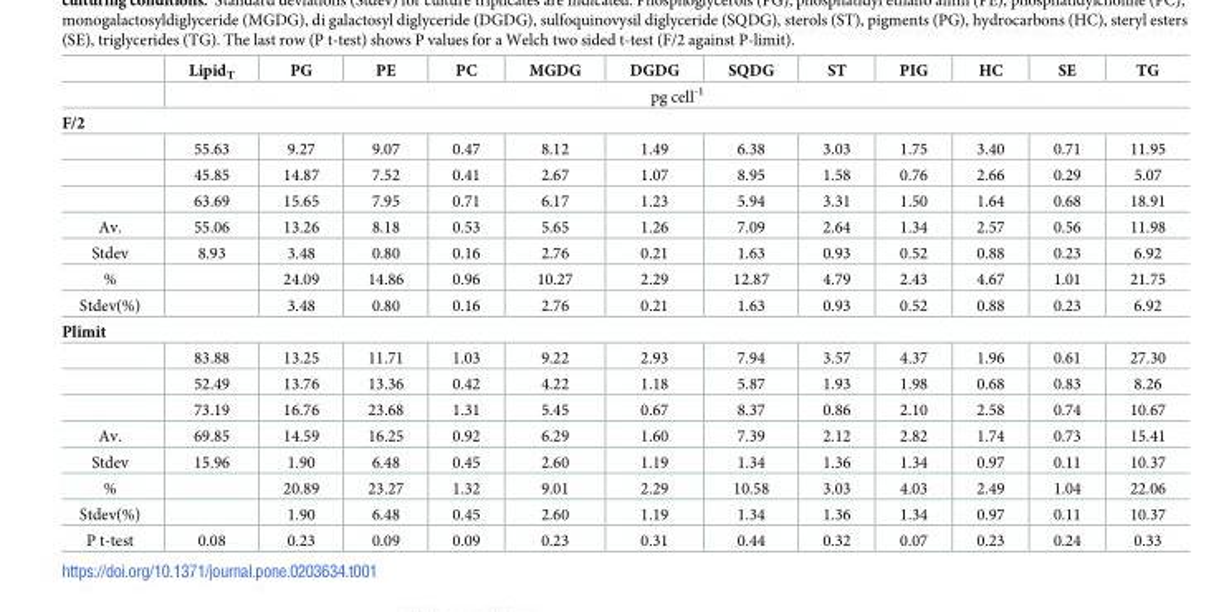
<table><thead><tr><td></td><td>Lipid<sub>T</sub></td><td>PG</td><td>PE</td><td>PC</td><td>MGDG</td><td>DGDG</td><td>SQDG</td><td>ST</td><td>PIG</td><td>HC</td><td>SE</td><td>TG</td></tr></thead><tbody><tr><td></td><td colspan="12">pg cell<sup>-1</sup></td></tr><tr><td colspan="13">F/2</td></tr><tr><td></td><td>55.63</td><td>9.27</td><td>9.07</td><td>0.47</td><td>8.12</td><td>1.49</td><td>6.38</td><td>3.03</td><td>1.75</td><td>3.40</td><td>0.71</td><td>11.95</td></tr><tr><td></td><td>45.85</td><td>14.87</td><td>7.52</td><td>0.41</td><td>2.67</td><td>1.07</td><td>8.95</td><td>1.58</td><td>0.76</td><td>2.66</td><td>0.29</td><td>5.07</td></tr><tr><td></td><td>63.69</td><td>15.65</td><td>7.95</td><td>0.71</td><td>6.17</td><td>1.23</td><td>5.94</td><td>3.31</td><td>1.50</td><td>1.64</td><td>0.68</td><td>18.91</td></tr><tr><td>Av.</td><td>55.06</td><td>13.26</td><td>8.18</td><td>0.53</td><td>5.65</td><td>1.26</td><td>7.09</td><td>2.64</td><td>1.34</td><td>2.57</td><td>0.56</td><td>11.98</td></tr><tr><td>Stdev</td><td>8.93</td><td>3.48</td><td>0.80</td><td>0.16</td><td>2.76</td><td>0.21</td><td>1.63</td><td>0.93</td><td>0.52</td><td>0.88</td><td>0.23</td><td>6.92</td></tr><tr><td>%</td><td></td><td>24.09</td><td>14.86</td><td>0.96</td><td>10.27</td><td>2.29</td><td>12.87</td><td>4.79</td><td>2.43</td><td>4.67</td><td>1.01</td><td>21.75</td></tr><tr><td>Stdev(%)</td><td></td><td>3.48</td><td>0.80</td><td>0.16</td><td>2.76</td><td>0.21</td><td>1.63</td><td>0.93</td><td>0.52</td><td>0.88</td><td>0.23</td><td>6.92</td></tr><tr><td colspan="13">Plimit</td></tr><tr><td></td><td>83.88</td><td>13.25</td><td>11.71</td><td>1.03</td><td>9.22</td><td>2.93</td><td>7.94</td><td>3.57</td><td>4.37</td><td>1.96</td><td>0.61</td><td>27.30</td></tr><tr><td></td><td>52.49</td><td>13.76</td><td>13.36</td><td>0.42</td><td>4.22</td><td>1.18</td><td>5.87</td><td>1.93</td><td>1.98</td><td>0.68</td><td>0.83</td><td>8.26</td></tr><tr><td></td><td>73.19</td><td>16.76</td><td>23.68</td><td>1.31</td><td>5.45</td><td>0.67</td><td>8.37</td><td>0.86</td><td>2.10</td><td>2.58</td><td>0.74</td><td>10.67</td></tr><tr><td>Av.</td><td>69.85</td><td>14.59</td><td>16.25</td><td>0.92</td><td>6.29</td><td>1.60</td><td>7.39</td><td>2.12</td><td>2.82</td><td>1.74</td><td>0.73</td><td>15.41</td></tr><tr><td>Stdev</td><td>15.96</td><td>1.90</td><td>6.48</td><td>0.45</td><td>2.60</td><td>1.19</td><td>1.34</td><td>1.36</td><td>1.34</td><td>0.97</td><td>0.11</td><td>10.37</td></tr><tr><td>%</td><td></td><td>20.89</td><td>23.27</td><td>1.32</td><td>9.01</td><td>2.29</td><td>10.58</td><td>3.03</td><td>4.03</td><td>2.49</td><td>1.04</td><td>22.06</td></tr><tr><td>Stdev(%)</td><td></td><td>1.90</td><td>6.48</td><td>0.45</td><td>2.60</td><td>1.19</td><td>1.34</td><td>1.36</td><td>1.34</td><td>0.97</td><td>0.11</td><td>10.37</td></tr><tr><td>P t-test</td><td>0.08</td><td>0.23</td><td>0.09</td><td>0.09</td><td>0.23</td><td>0.31</td><td>0.44</td><td>0.32</td><td>0.07</td><td>0.23</td><td>0.24</td><td>0.33</td></tr></tbody></table>